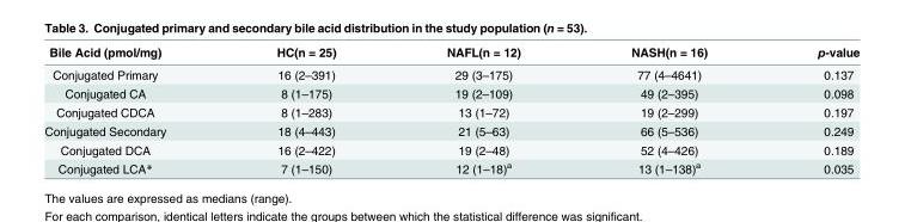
<table><thead><tr><td>Bile Acid (pmol/mg)</td><td>HC(n = 25)</td><td>NAFL(n = 12)</td><td>NASH(n = 16)</td><td>p-value</td></tr></thead><tbody><tr><td>Conjugated Primary</td><td>16 (2–391)</td><td>29 (3–175)</td><td>77 (4–4641)</td><td>0.137</td></tr><tr><td>Conjugated CA</td><td>8 (1–175)</td><td>19 (2–109)</td><td>49 (2–395)</td><td>0.098</td></tr><tr><td>Conjugated CDCA</td><td>8 (1–283)</td><td>13 (1–72)</td><td>19 (2–299)</td><td>0.197</td></tr><tr><td>Conjugated Secondary</td><td>18 (4–443)</td><td>21 (5–63)</td><td>66 (5–536)</td><td>0.249</td></tr><tr><td>Conjugated DCA</td><td>16 (2–422)</td><td>19 (2–48)</td><td>52 (4–426)</td><td>0.189</td></tr><tr><td>Conjugated LCA*</td><td>7 (1–150)</td><td>12 (1–18)<sup>a</sup></td><td>13 (1–138)<sup>a</sup></td><td>0.035</td></tr></tbody></table>